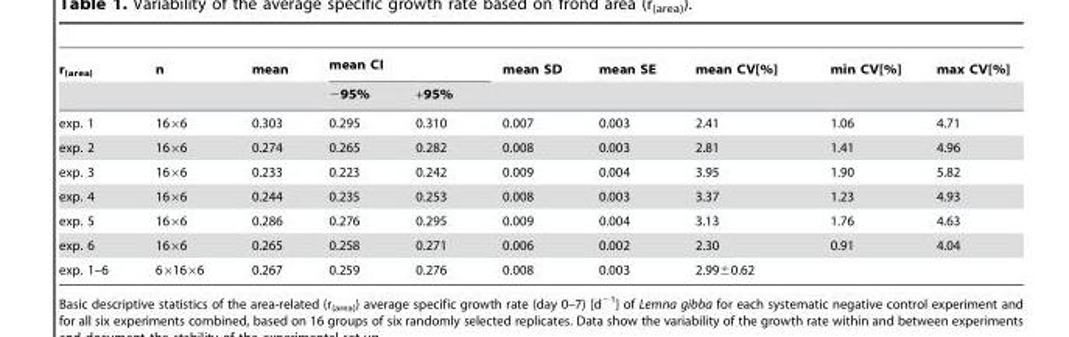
<table><thead><tr><td rowspan="2">r<sub>(area)</sub></td><td rowspan="2">n</td><td rowspan="2">mean</td><td colspan="2">mean CI</td><td rowspan="2">mean SD</td><td rowspan="2">mean SE</td><td rowspan="2">mean CV[%]</td><td rowspan="2">min CV[%]</td><td rowspan="2">max CV[%]</td></tr><tr><td>−95%</td><td>+95%</td></tr></thead><tbody><tr><td>exp. 1</td><td>16×6</td><td>0.303</td><td>0.295</td><td>0.310</td><td>0.007</td><td>0.003</td><td>2.41</td><td>1.06</td><td>4.71</td></tr><tr><td>exp. 2</td><td>16×6</td><td>0.274</td><td>0.265</td><td>0.282</td><td>0.008</td><td>0.003</td><td>2.81</td><td>1.41</td><td>4.96</td></tr><tr><td>exp. 3</td><td>16×6</td><td>0.233</td><td>0.223</td><td>0.242</td><td>0.009</td><td>0.004</td><td>3.95</td><td>1.90</td><td>5.82</td></tr><tr><td>exp. 4</td><td>16×6</td><td>0.244</td><td>0.235</td><td>0.253</td><td>0.008</td><td>0.003</td><td>3.37</td><td>1.23</td><td>4.93</td></tr><tr><td>exp. 5</td><td>16×6</td><td>0.286</td><td>0.276</td><td>0.295</td><td>0.009</td><td>0.004</td><td>3.13</td><td>1.76</td><td>4.63</td></tr><tr><td>exp. 6</td><td>16×6</td><td>0.265</td><td>0.258</td><td>0.271</td><td>0.006</td><td>0.002</td><td>2.30</td><td>0.91</td><td>4.04</td></tr><tr><td>exp. 1–6</td><td>6×16×6</td><td>0.267</td><td>0.259</td><td>0.276</td><td>0.008</td><td>0.003</td><td>2.99±0.62</td><td></td><td></td></tr></tbody></table>